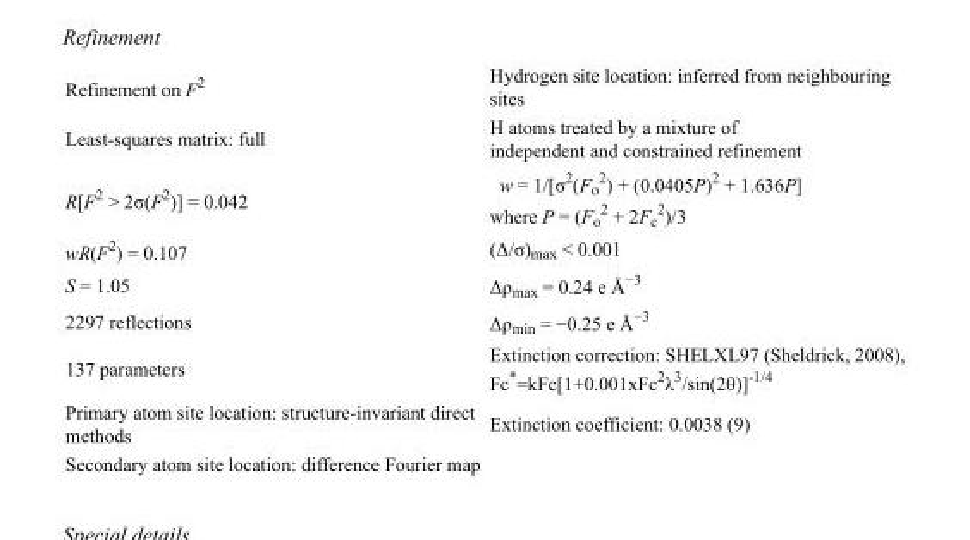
<table><tbody><tr><td>Refinement on F<sup>2</sup></td><td>Hydrogen site location: inferred from neighbouring sites</td></tr><tr><td>Least-squares matrix: full</td><td>H atoms treated by a mixture of independent and constrained refinement</td></tr><tr><td>R[F<sup>2</sup> &gt; 2σ(F<sup>2</sup>)] = 0.042</td><td>w = 1/[σ<sup>2</sup>(F<sub>o</sub> <sup>2</sup>) + (0.0405P)<sup>2</sup> + 1.636P] where P = (F<sub>o</sub> <sup>2</sup> + 2F<sub>c</sub> <sup>2</sup>)/3</td></tr><tr><td>wR(F<sup>2</sup>) = 0.107</td><td>(Δ/σ)<sub>max</sub> &lt; 0.001</td></tr><tr><td>S = 1.05</td><td>Δρ<sub>max</sub> = 0.24 e Å<sup>−3</sup></td></tr><tr><td>2297 reflections</td><td>Δρ<sub>min</sub> = −0.25 e Å<sup>−3</sup></td></tr><tr><td>137 parameters</td><td>Extinction correction: SHELXL97 (Sheldrick, 2008), Fc*=kFc[1+0.001xFc<sup>2</sup>λ<sup>3</sup>/sin(2θ)]<sup>-1/4</sup></td></tr><tr><td>Primary atom site location: structure-invariant direct methods</td><td>Extinction coefficient: 0.0038 (9)</td></tr><tr><td>Secondary atom site location: difference Fourier map</td><td></td></tr></tbody></table>